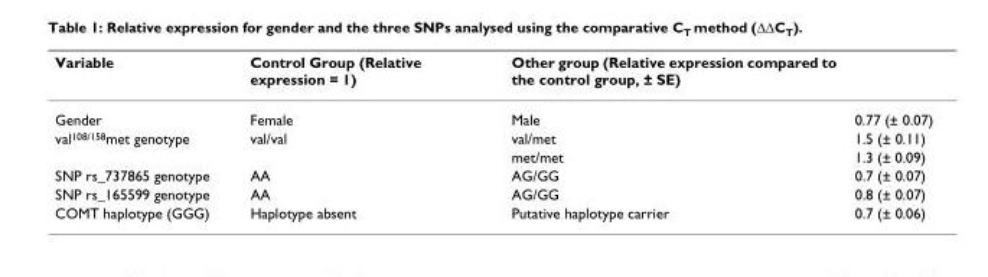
<table><thead><tr><td>Variable</td><td>Control Group (Relative expression = 1)</td><td>Other group (Relative expression compared to the control group, ± SE)</td><td></td></tr></thead><tbody><tr><td>Gender</td><td>Female</td><td>Male</td><td>0.77 (± 0.07)</td></tr><tr><td rowspan="2">val<sup>108/158</sup>met genotype</td><td>val/val</td><td>val/met</td><td>1.5 (± 0.11)</td></tr><tr><td></td><td>met/met</td><td>1.3 (± 0.09)</td></tr><tr><td>SNP rs_737865 genotype</td><td>AA</td><td>AG/GG</td><td>0.7 (± 0.07)</td></tr><tr><td>SNP rs_165599 genotype</td><td>AA</td><td>AG/GG</td><td>0.8 (± 0.07)</td></tr><tr><td>COMT haplotype (GGG)</td><td>Haplotype absent</td><td>Putative haplotype carrier</td><td>0.7 (± 0.06)</td></tr></tbody></table>